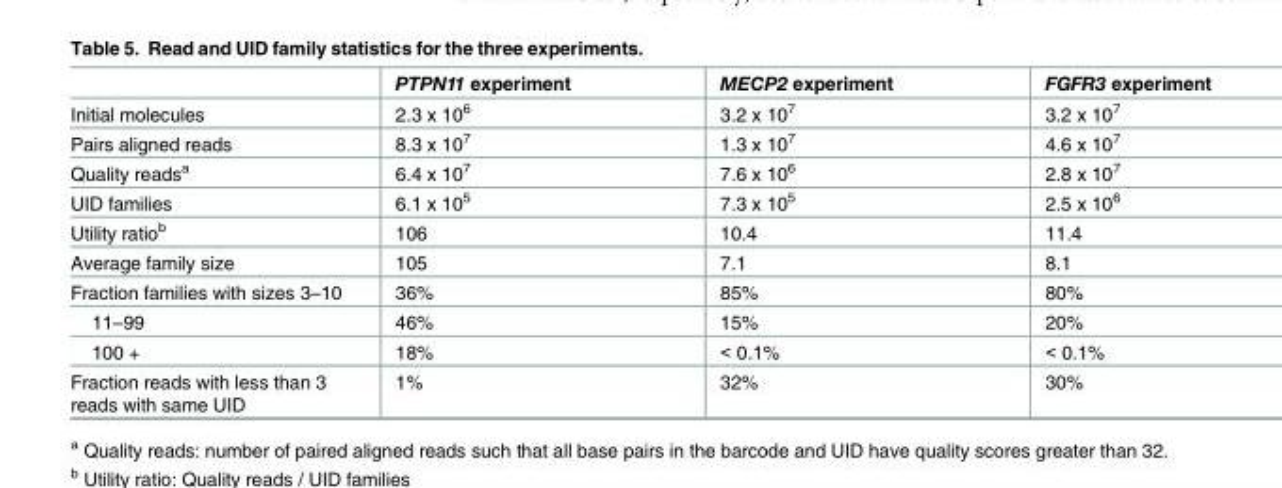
<table><thead><tr><td></td><td>PTPN11 experiment</td><td>MECP2 experiment</td><td>FGFR3 experiment</td></tr></thead><tbody><tr><td>Initial molecules</td><td>2.3 x 10<sup>6</sup></td><td>3.2 x 10<sup>7</sup></td><td>3.2 x 10<sup>7</sup></td></tr><tr><td>Pairs aligned reads</td><td>8.3 x 10<sup>7</sup></td><td>1.3 x 10<sup>7</sup></td><td>4.6 x 10<sup>7</sup></td></tr><tr><td>Quality reads<sup>a</sup></td><td>6.4 x 10<sup>7</sup></td><td>7.6 x 10<sup>6</sup></td><td>2.8 x 10<sup>7</sup></td></tr><tr><td>UID families</td><td>6.1 x 10<sup>5</sup></td><td>7.3 x 10<sup>5</sup></td><td>2.5 x 10<sup>6</sup></td></tr><tr><td>Utility ratio<sup>b</sup></td><td>106</td><td>10.4</td><td>11.4</td></tr><tr><td>Average family size</td><td>105</td><td>7.1</td><td>8.1</td></tr><tr><td>Fraction families with sizes 3–10</td><td>36%</td><td>85%</td><td>80%</td></tr><tr><td>11–99</td><td>46%</td><td>15%</td><td>20%</td></tr><tr><td>100 +</td><td>18%</td><td>&lt; 0.1%</td><td>&lt; 0.1%</td></tr><tr><td>Fraction reads with less than 3 reads with same UID</td><td>1%</td><td>32%</td><td>30%</td></tr></tbody></table>